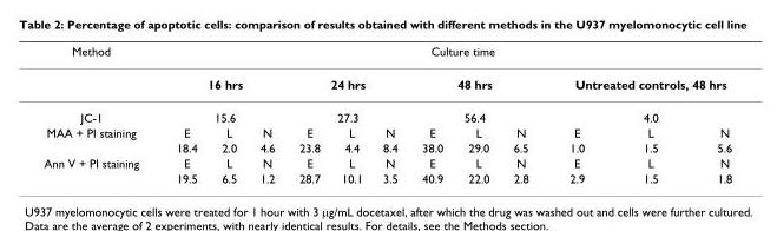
<table><thead><tr><td rowspan="4">Method JC-1 MAA + PI staining</td><td colspan="12">Culture time</td></tr><tr><td rowspan="2" colspan="3">16 hrs 15.6</td><td rowspan="2" colspan="3">24 hrs 27.3</td><td rowspan="2" colspan="3">48 hrs 56.4</td><td rowspan="2" colspan="3">Untreated controls, 48 hrs 4.0</td></tr><tr></tr><tr><td>E</td><td>L</td><td>N</td><td>E</td><td>L</td><td>N</td><td>E</td><td>L</td><td>N</td><td>E</td><td>L</td><td>N</td></tr></thead><tbody><tr><td></td><td>18.4</td><td>2.0</td><td>4.6</td><td>23.8</td><td>4.4</td><td>8.4</td><td>38.0</td><td>29.0</td><td>6.5</td><td>1.0</td><td>1.5</td><td>5.6</td></tr><tr><td rowspan="2">Ann V + PI staining</td><td>E</td><td>L</td><td>N</td><td>E</td><td>L</td><td>N</td><td>E</td><td>L</td><td>N</td><td>E</td><td>L</td><td>N</td></tr><tr><td>19.5</td><td>6.5</td><td>1.2</td><td>28.7</td><td>10.1</td><td>3.5</td><td>40.9</td><td>22.0</td><td>2.8</td><td>2.9</td><td>1.5</td><td>1.8</td></tr></tbody></table>